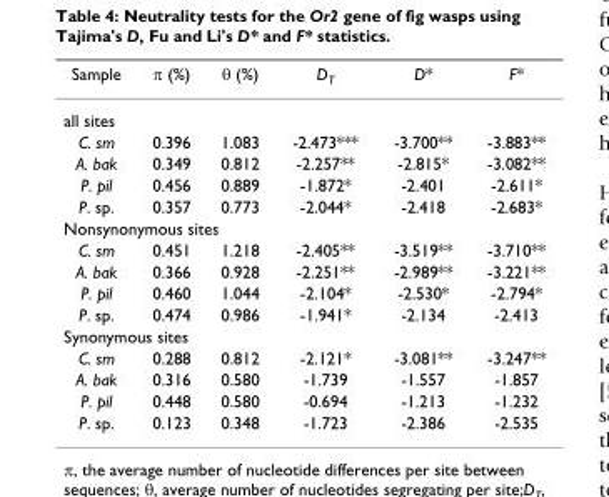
<table><thead><tr><td>Sample</td><td>π (%)</td><td>θ (%)</td><td>D<sub>T</sub></td><td>D*</td><td>F*</td></tr></thead><tbody><tr><td colspan="6">all sites</td></tr><tr><td>C. sm</td><td>0.396</td><td>1.083</td><td>-2.473***</td><td>-3.700**</td><td>-3.883**</td></tr><tr><td>A. bak</td><td>0.349</td><td>0.812</td><td>-2.257**</td><td>-2.815*</td><td>-3.082**</td></tr><tr><td>P. pil</td><td>0.456</td><td>0.889</td><td>-1.872*</td><td>-2.401</td><td>-2.611*</td></tr><tr><td>P. sp.</td><td>0.357</td><td>0.773</td><td>-2.044*</td><td>-2.418</td><td>-2.683*</td></tr><tr><td colspan="6">Nonsynonymous sites</td></tr><tr><td>C. sm</td><td>0.451</td><td>1.218</td><td>-2.405**</td><td>-3.519**</td><td>-3.710**</td></tr><tr><td>A. bak</td><td>0.366</td><td>0.928</td><td>-2.251**</td><td>-2.989**</td><td>-3.221**</td></tr><tr><td>P. pil</td><td>0.460</td><td>1.044</td><td>-2.104*</td><td>-2.530*</td><td>-2.794*</td></tr><tr><td>P. sp.</td><td>0.474</td><td>0.986</td><td>-1.941*</td><td>-2.134</td><td>-2.413</td></tr><tr><td colspan="6">Synonymous sites</td></tr><tr><td>C. sm</td><td>0.288</td><td>0.812</td><td>-2.121*</td><td>-3.081**</td><td>-3.247**</td></tr><tr><td>A. bak</td><td>0.316</td><td>0.580</td><td>-1.739</td><td>-1.557</td><td>-1.857</td></tr><tr><td>P. pil</td><td>0.448</td><td>0.580</td><td>-0.694</td><td>-1.213</td><td>-1.232</td></tr><tr><td>P. sp.</td><td>0.123</td><td>0.348</td><td>-1.723</td><td>-2.386</td><td>-2.535</td></tr></tbody></table>